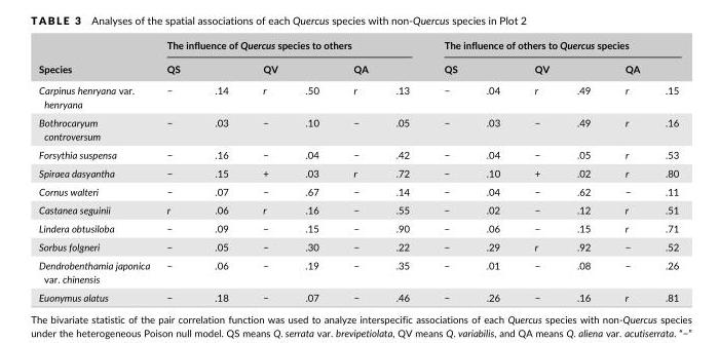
<table><thead><tr><td rowspan="3">Species Carpinus henryana var. henryana</td><td colspan="6">The influence of Quercus species to others</td><td colspan="6">The influence of others to Quercus species</td></tr><tr><td colspan="2">QS</td><td colspan="2">QV</td><td colspan="2">QA</td><td colspan="2">QS</td><td colspan="2">QV</td><td colspan="2">QA</td></tr><tr><td>−</td><td>.14</td><td>r</td><td>.50</td><td>r</td><td>.13</td><td>−</td><td>.04</td><td>r</td><td>.49</td><td>r</td><td>.15</td></tr></thead><tbody><tr><td>Bothrocaryum controversum</td><td>−</td><td>.03</td><td>−</td><td>.10</td><td>−</td><td>.05</td><td>−</td><td>.03</td><td>−</td><td>.49</td><td>r</td><td>.16</td></tr><tr><td>Forsythia suspensa</td><td>−</td><td>.16</td><td>−</td><td>.04</td><td>−</td><td>.42</td><td>−</td><td>.04</td><td>−</td><td>.05</td><td>r</td><td>.53</td></tr><tr><td>Spiraea dasyantha</td><td>−</td><td>.15</td><td>+</td><td>.03</td><td>r</td><td>.72</td><td>−</td><td>.10</td><td>+</td><td>.02</td><td>r</td><td>.80</td></tr><tr><td>Cornus walteri</td><td>−</td><td>.07</td><td>−</td><td>.67</td><td>−</td><td>.14</td><td>−</td><td>.04</td><td>−</td><td>.62</td><td>−</td><td>.11</td></tr><tr><td>Castanea seguinii</td><td>r</td><td>.06</td><td>r</td><td>.16</td><td>−</td><td>.55</td><td>−</td><td>.02</td><td>−</td><td>.12</td><td>r</td><td>.51</td></tr><tr><td>Lindera obtusiloba</td><td>−</td><td>.09</td><td>−</td><td>.15</td><td>−</td><td>.90</td><td>−</td><td>.06</td><td>−</td><td>.15</td><td>r</td><td>.71</td></tr><tr><td>Sorbus folgneri</td><td>−</td><td>.05</td><td>−</td><td>.30</td><td>−</td><td>.22</td><td>−</td><td>.29</td><td>r</td><td>.92</td><td>−</td><td>.52</td></tr><tr><td>Dendrobenthamia japonica var. chinensis</td><td>−</td><td>.06</td><td>−</td><td>.19</td><td>−</td><td>.35</td><td>−</td><td>.01</td><td>−</td><td>.08</td><td>−</td><td>.26</td></tr><tr><td>Euonymus alatus</td><td>−</td><td>.18</td><td>−</td><td>.07</td><td>−</td><td>.46</td><td>−</td><td>.26</td><td>−</td><td>.16</td><td>r</td><td>.81</td></tr></tbody></table>